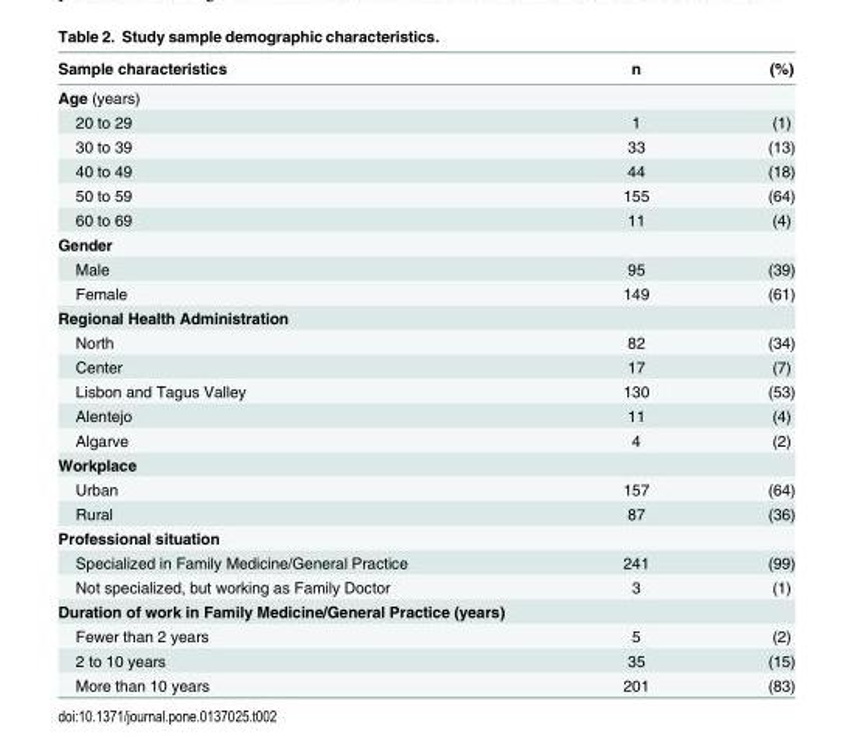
<table><thead><tr><td>Sample characteristics</td><td>n</td><td>(%)</td></tr></thead><tbody><tr><td colspan="3">Age (years)</td></tr><tr><td>20 to 29</td><td>1</td><td>(1)</td></tr><tr><td>30 to 39</td><td>33</td><td>(13)</td></tr><tr><td>40 to 49</td><td>44</td><td>(18)</td></tr><tr><td>50 to 59</td><td>155</td><td>(64)</td></tr><tr><td>60 to 69</td><td>11</td><td>(4)</td></tr><tr><td colspan="3">Gender</td></tr><tr><td>Male</td><td>95</td><td>(39)</td></tr><tr><td>Female</td><td>149</td><td>(61)</td></tr><tr><td colspan="3">Regional Health Administration</td></tr><tr><td>North</td><td>82</td><td>(34)</td></tr><tr><td>Center</td><td>17</td><td>(7)</td></tr><tr><td>Lisbon and Tagus Valley</td><td>130</td><td>(53)</td></tr><tr><td>Alentejo</td><td>11</td><td>(4)</td></tr><tr><td>Algarve</td><td>4</td><td>(2)</td></tr><tr><td colspan="3">Workplace</td></tr><tr><td>Urban</td><td>157</td><td>(64)</td></tr><tr><td>Rural</td><td>87</td><td>(36)</td></tr><tr><td colspan="3">Professional situation</td></tr><tr><td>Specialized in Family Medicine/General Practice</td><td>241</td><td>(99)</td></tr><tr><td>Not specialized, but working as Family Doctor</td><td>3</td><td>(1)</td></tr><tr><td colspan="3">Duration of work in Family Medicine/General Practice (years)</td></tr><tr><td>Fewer than 2 years</td><td>5</td><td>(2)</td></tr><tr><td>2 to 10 years</td><td>35</td><td>(15)</td></tr><tr><td>More than 10 years</td><td>201</td><td>(83)</td></tr></tbody></table>